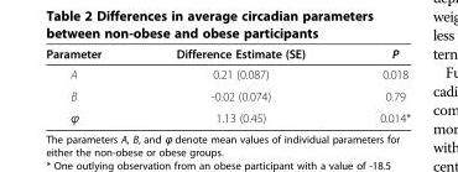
<table><thead><tr><td>Parameter</td><td>Difference Estimate (SE)</td><td>P</td></tr></thead><tbody><tr><td>A</td><td>0.21 (0.087)</td><td>0.018</td></tr><tr><td>B</td><td>-0.02 (0.074)</td><td>0.79</td></tr><tr><td>ϕ</td><td>1.13 (0.45)</td><td>0.014*</td></tr></tbody></table>